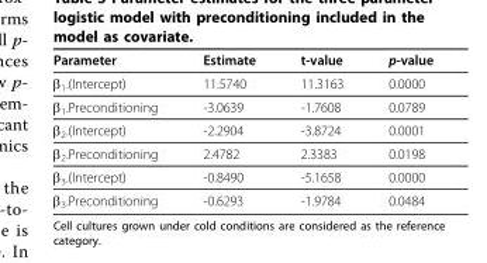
<table><thead><tr><td>Parameter</td><td>Estimate</td><td>t-value</td><td>p-value</td></tr></thead><tbody><tr><td>β<sub>1</sub>.(Intercept)</td><td>11.5740</td><td>11.3163</td><td>0.0000</td></tr><tr><td>β<sub>1</sub>.Preconditioning</td><td>-3.0639</td><td>-1.7608</td><td>0.0789</td></tr><tr><td>β<sub>2</sub>.(Intercept)</td><td>-2.2904</td><td>-3.8724</td><td>0.0001</td></tr><tr><td>β<sub>2</sub>.Preconditioning</td><td>2.4782</td><td>2.3383</td><td>0.0198</td></tr><tr><td>β<sub>3</sub>.(Intercept)</td><td>-0.8490</td><td>-5.1658</td><td>0.0000</td></tr><tr><td>β<sub>3</sub>.Preconditioning</td><td>-0.6293</td><td>-1.9784</td><td>0.0484</td></tr></tbody></table>